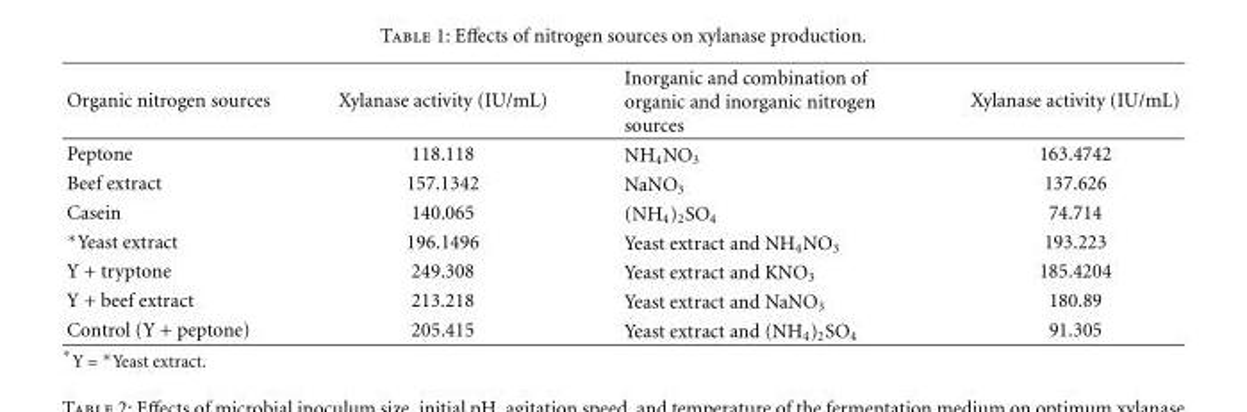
<table><thead><tr><td>Organic nitrogen sources</td><td>Xylanase activity (IU/mL)</td><td>Inorganic and combination of organic and inorganic nitrogen sources</td><td>Xylanase activity (IU/mL)</td></tr></thead><tbody><tr><td>Peptone</td><td>118.118</td><td>NH<sub>4</sub>NO<sub>3</sub></td><td>163.4742</td></tr><tr><td>Beef extract</td><td>157.1342</td><td>NaNO<sub>3</sub></td><td>137.626</td></tr><tr><td>Casein</td><td>140.065</td><td>(NH<sub>4</sub>)<sub>2</sub>SO<sub>4</sub></td><td>74.714</td></tr><tr><td>∗Yeast extract</td><td>196.1496</td><td>Yeast extract and NH<sub>4</sub>NO<sub>3</sub></td><td>193.223</td></tr><tr><td>Y + tryptone</td><td>249.308</td><td>Yeast extract and KNO<sub>3</sub></td><td>185.4204</td></tr><tr><td>Y + beef extract</td><td>213.218</td><td>Yeast extract and NaNO<sub>3</sub></td><td>180.89</td></tr><tr><td>Control (Y + peptone)</td><td>205.415</td><td>Yeast extract and (NH<sub>4</sub>)<sub>2</sub>SO<sub>4</sub></td><td>91.305</td></tr></tbody></table>